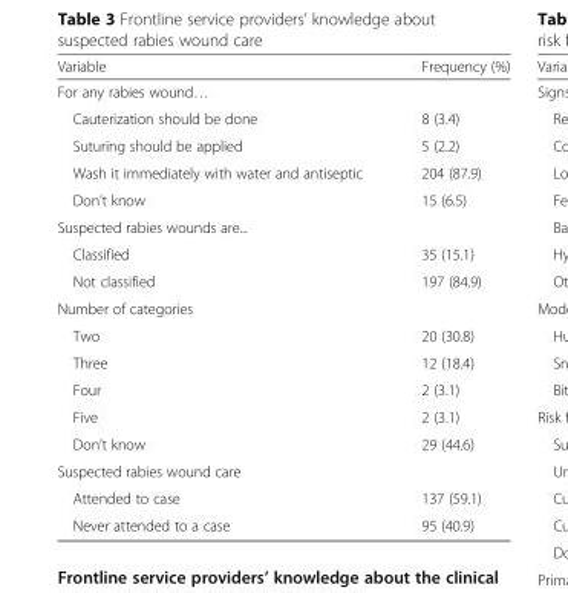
<table><thead><tr><td>Variable</td><td>Frequency (%)</td></tr></thead><tbody><tr><td colspan="2">For any rabies wound…</td></tr><tr><td>Cauterization should be done</td><td>8 (3.4)</td></tr><tr><td>Suturing should be applied</td><td>5 (2.2)</td></tr><tr><td>Wash it immediately with water and antiseptic</td><td>204 (87.9)</td></tr><tr><td>Don’t know</td><td>15 (6.5)</td></tr><tr><td colspan="2">Suspected rabies wounds are...</td></tr><tr><td>Classified</td><td>35 (15.1)</td></tr><tr><td>Not classified</td><td>197 (84.9)</td></tr><tr><td colspan="2">Number of categories</td></tr><tr><td>Two</td><td>20 (30.8)</td></tr><tr><td>Three</td><td>12 (18.4)</td></tr><tr><td>Four</td><td>2 (3.1)</td></tr><tr><td>Five</td><td>2 (3.1)</td></tr><tr><td>Don’t know</td><td>29 (44.6)</td></tr><tr><td colspan="2">Suspected rabies wound care</td></tr><tr><td>Attended to case</td><td>137 (59.1)</td></tr><tr><td>Never attended to a case</td><td>95 (40.9)</td></tr></tbody></table>